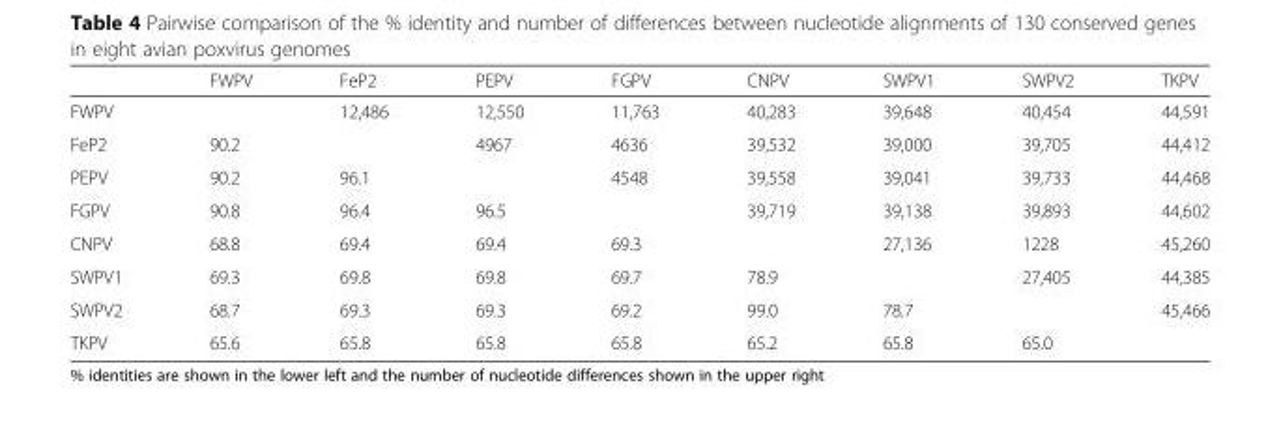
<table><thead><tr><td></td><td>FWPV</td><td>FeP2</td><td>PEPV</td><td>FGPV</td><td>CNPV</td><td>SWPV1</td><td>SWPV2</td><td>TKPV</td></tr></thead><tbody><tr><td>FWPV</td><td></td><td>12,486</td><td>12,550</td><td>11,763</td><td>40,283</td><td>39,648</td><td>40,454</td><td>44,591</td></tr><tr><td>FeP2</td><td>90.2</td><td></td><td>4967</td><td>4636</td><td>39,532</td><td>39,000</td><td>39,705</td><td>44,412</td></tr><tr><td>PEPV</td><td>90.2</td><td>96.1</td><td></td><td>4548</td><td>39,558</td><td>39,041</td><td>39,733</td><td>44,468</td></tr><tr><td>FGPV</td><td>90.8</td><td>96.4</td><td>96.5</td><td></td><td>39,719</td><td>39,138</td><td>39,893</td><td>44,602</td></tr><tr><td>CNPV</td><td>68.8</td><td>69.4</td><td>69.4</td><td>69.3</td><td></td><td>27,136</td><td>1228</td><td>45,260</td></tr><tr><td>SWPV1</td><td>69.3</td><td>69.8</td><td>69.8</td><td>69.7</td><td>78.9</td><td></td><td>27,405</td><td>44,385</td></tr><tr><td>SWPV2</td><td>68.7</td><td>69.3</td><td>69.3</td><td>69.2</td><td>99.0</td><td>78.7</td><td></td><td>45,466</td></tr><tr><td>TKPV</td><td>65.6</td><td>65.8</td><td>65.8</td><td>65.8</td><td>65.2</td><td>65.8</td><td>65.0</td><td></td></tr></tbody></table>